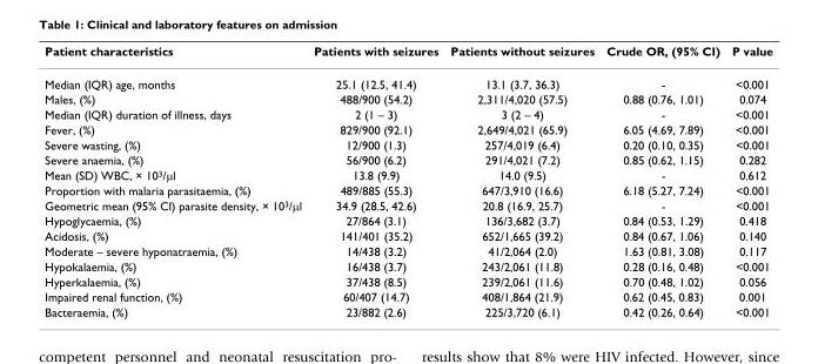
<table><thead><tr><td>Patient characteristics</td><td>Patients with seizures</td><td>Patients without seizures</td><td>Crude OR, (95% CI)</td><td>P value</td></tr></thead><tbody><tr><td>Median (IQR) age, months</td><td>25.1 (12.5, 41.4)</td><td>13.1 (3.7, 36.3)</td><td>-</td><td>&lt;0.001</td></tr><tr><td>Males, (%)</td><td>488/900 (54.2)</td><td>2,311/4,020 (57.5)</td><td>0.88 (0.76, 1.01)</td><td>0.074</td></tr><tr><td>Median (IQR) duration of illness, days</td><td>2 (1 – 3)</td><td>3 (2 – 4)</td><td>-</td><td>&lt;0.001</td></tr><tr><td>Fever, (%)</td><td>829/900 (92.1)</td><td>2,649/4,021 (65.9)</td><td>6.05 (4.69, 7.89)</td><td>&lt;0.001</td></tr><tr><td>Severe wasting, (%)</td><td>12/900 (1.3)</td><td>257/4,019 (6.4)</td><td>0.20 (0.10, 0.35)</td><td>&lt;0.001</td></tr><tr><td>Severe anaemia, (%)</td><td>56/900 (6.2)</td><td>291/4,021 (7.2)</td><td>0.85 (0.62, 1.15)</td><td>0.282</td></tr><tr><td>Mean (SD) WBC, × 10<sup>3</sup>/µl</td><td>13.8 (9.9)</td><td>14.0 (9.5)</td><td>-</td><td>0.612</td></tr><tr><td>Proportion with malaria parasitaemia, (%)</td><td>489/885 (55.3)</td><td>647/3,910 (16.6)</td><td>6.18 (5.27, 7.24)</td><td>&lt;0.001</td></tr><tr><td>Geometric mean (95% CI) parasite density, × 10<sup>3</sup>/µl</td><td>34.9 (28.5, 42.6)</td><td>20.8 (16.9, 25.7)</td><td>-</td><td>&lt;0.001</td></tr><tr><td>Hypoglycaemia, (%)</td><td>27/864 (3.1)</td><td>136/3,682 (3.7)</td><td>0.84 (0.53, 1.29)</td><td>0.418</td></tr><tr><td>Acidosis, (%)</td><td>141/401 (35.2)</td><td>652/1,665 (39.2)</td><td>0.84 (0.67, 1.06)</td><td>0.140</td></tr><tr><td>Moderate – severe hyponatraemia, (%)</td><td>14/438 (3.2)</td><td>41/2,064 (2.0)</td><td>1.63 (0.81, 3.08)</td><td>0.117</td></tr><tr><td>Hypokalaemia, (%)</td><td>16/438 (3.7)</td><td>243/2,061 (11.8)</td><td>0.28 (0.16, 0.48)</td><td>&lt;0.001</td></tr><tr><td>Hyperkalaemia, (%)</td><td>37/438 (8.5)</td><td>239/2,061 (11.6)</td><td>0.70 (0.48, 1.02)</td><td>0.056</td></tr><tr><td>Impaired renal function, (%)</td><td>60/407 (14.7)</td><td>408/1,864 (21.9)</td><td>0.62 (0.45, 0.83)</td><td>0.001</td></tr><tr><td>Bacteraemia, (%)</td><td>23/882 (2.6)</td><td>225/3,720 (6.1)</td><td>0.42 (0.26, 0.64)</td><td>&lt;0.001</td></tr></tbody></table>